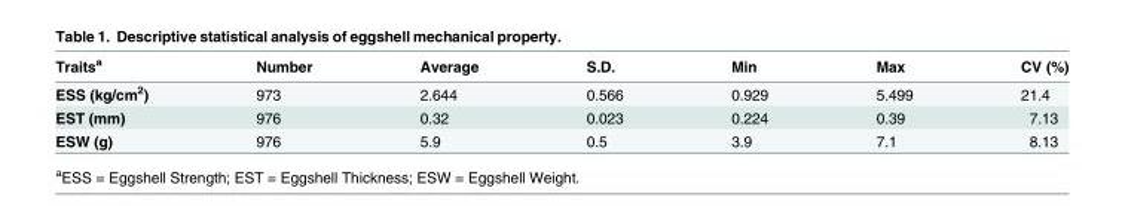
<table><thead><tr><td>Traits<sup>a</sup></td><td>Number</td><td>Average</td><td>S.D.</td><td>Min</td><td>Max</td><td>CV (%)</td></tr></thead><tbody><tr><td>ESS (kg/cm<sup>2</sup>)</td><td>973</td><td>2.644</td><td>0.566</td><td>0.929</td><td>5.499</td><td>21.4</td></tr><tr><td>EST (mm)</td><td>976</td><td>0.32</td><td>0.023</td><td>0.224</td><td>0.39</td><td>7.13</td></tr><tr><td>ESW (g)</td><td>976</td><td>5.9</td><td>0.5</td><td>3.9</td><td>7.1</td><td>8.13</td></tr></tbody></table>